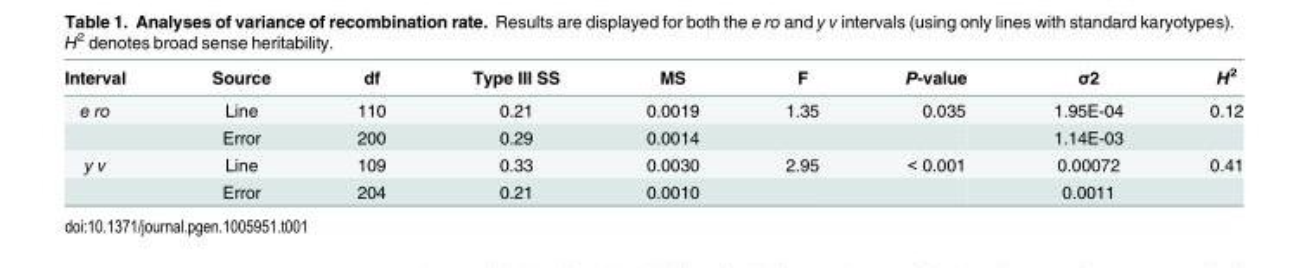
<table><thead><tr><td>Interval</td><td>Source</td><td>df</td><td>Type III SS</td><td>MS</td><td>F</td><td>P-value</td><td>σ2</td><td>H<sup>2</sup></td></tr></thead><tbody><tr><td rowspan="2">e ro</td><td>Line</td><td>110</td><td>0.21</td><td>0.0019</td><td>1.35</td><td>0.035</td><td>1.95E-04</td><td>0.12</td></tr><tr><td>Error</td><td>200</td><td>0.29</td><td>0.0014</td><td></td><td></td><td>1.14E-03</td><td></td></tr><tr><td rowspan="2">y v</td><td>Line</td><td>109</td><td>0.33</td><td>0.0030</td><td>2.95</td><td>&lt; 0.001</td><td>0.00072</td><td>0.41</td></tr><tr><td>Error</td><td>204</td><td>0.21</td><td>0.0010</td><td></td><td></td><td>0.0011</td><td></td></tr></tbody></table>